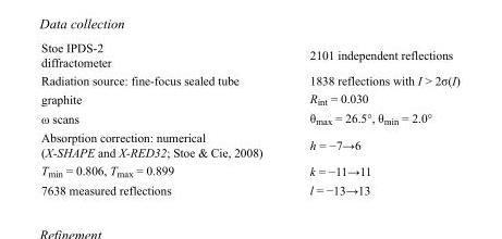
<table><tbody><tr><td>Stoe IPDS-2 diffractometer</td><td>2101 independent reflections</td></tr><tr><td>Radiation source: fine-focus sealed tube</td><td>1838 reflections with I &gt; 2σ(I)</td></tr><tr><td>graphite</td><td>R<sub>int</sub> = 0.030</td></tr><tr><td>ω scans</td><td>θ<sub>max</sub> = 26.5°, θ<sub>min</sub> = 2.0°</td></tr><tr><td>Absorption correction: numerical (X-SHAPE and X-RED32; Stoe &amp; Cie, 2008)</td><td>h = −7→6</td></tr><tr><td>T<sub>min</sub> = 0.806, T<sub>max</sub> = 0.899</td><td>k = −11→11</td></tr><tr><td>7638 measured reflections</td><td>l = −13→13</td></tr></tbody></table>